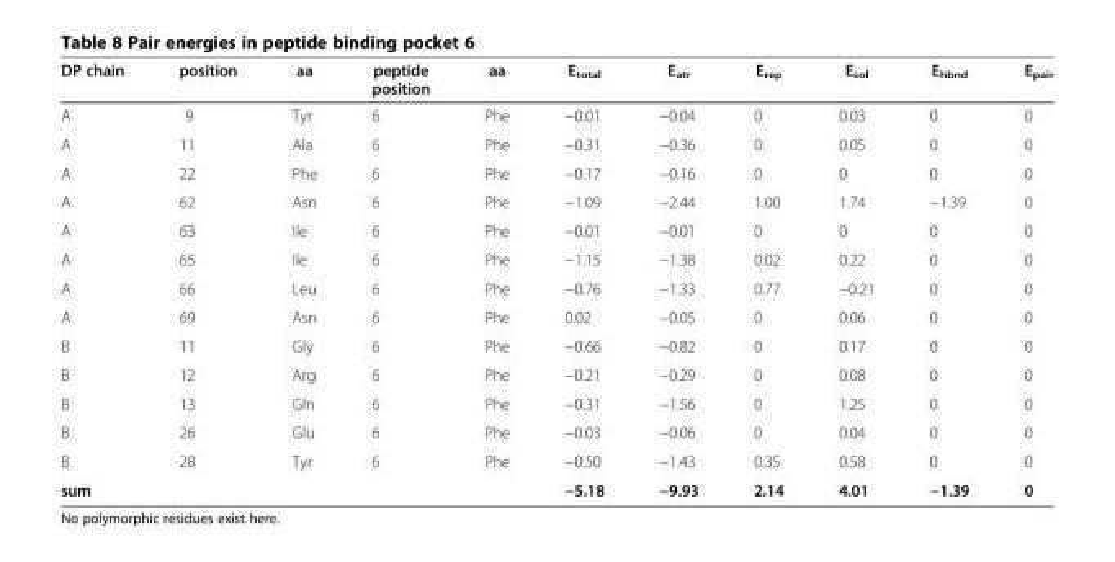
<table><thead><tr><td>DP chain</td><td>position</td><td>aa</td><td>peptide position</td><td>aa</td><td>E<sub>total</sub></td><td>E<sub>atr</sub></td><td>E<sub>rep</sub></td><td>E<sub>sol</sub></td><td>E<sub>hbnd</sub></td><td>E<sub>pair</sub></td></tr></thead><tbody><tr><td>A</td><td>9</td><td>Tyr</td><td>6</td><td>Phe</td><td>−0.01</td><td>−0.04</td><td>0</td><td>0.03</td><td>0</td><td>0</td></tr><tr><td>A</td><td>11</td><td>Ala</td><td>6</td><td>Phe</td><td>−0.31</td><td>−0.36</td><td>0</td><td>0.05</td><td>0</td><td>0</td></tr><tr><td>A</td><td>22</td><td>Phe</td><td>6</td><td>Phe</td><td>−0.17</td><td>−0.16</td><td>0</td><td>0</td><td>0</td><td>0</td></tr><tr><td>A</td><td>62</td><td>Asn</td><td>6</td><td>Phe</td><td>−1.09</td><td>−2.44</td><td>1.00</td><td>1.74</td><td>−1.39</td><td>0</td></tr><tr><td>A</td><td>63</td><td>Ile</td><td>6</td><td>Phe</td><td>−0.01</td><td>−0.01</td><td>0</td><td>0</td><td>0</td><td>0</td></tr><tr><td>A</td><td>65</td><td>Ile</td><td>6</td><td>Phe</td><td>−1.15</td><td>−1.38</td><td>0.02</td><td>0.22</td><td>0</td><td>0</td></tr><tr><td>A</td><td>66</td><td>Leu</td><td>6</td><td>Phe</td><td>−0.76</td><td>−1.33</td><td>0.77</td><td>−0.21</td><td>0</td><td>0</td></tr><tr><td>A</td><td>69</td><td>Asn</td><td>6</td><td>Phe</td><td>0.02</td><td>−0.05</td><td>0</td><td>0.06</td><td>0</td><td>0</td></tr><tr><td>B</td><td>11</td><td>Gly</td><td>6</td><td>Phe</td><td>−0.66</td><td>−0.82</td><td>0</td><td>0.17</td><td>0</td><td>0</td></tr><tr><td>B</td><td>12</td><td>Arg</td><td>6</td><td>Phe</td><td>−0.21</td><td>−0.29</td><td>0</td><td>0.08</td><td>0</td><td>0</td></tr><tr><td>B</td><td>13</td><td>Gln</td><td>6</td><td>Phe</td><td>−0.31</td><td>−1.56</td><td>0</td><td>1.25</td><td>0</td><td>0</td></tr><tr><td>B</td><td>26</td><td>Glu</td><td>6</td><td>Phe</td><td>−0.03</td><td>−0.06</td><td>0</td><td>0.04</td><td>0</td><td>0</td></tr><tr><td>B</td><td>28</td><td>Tyr</td><td>6</td><td>Phe</td><td>−0.50</td><td>−1.43</td><td>0.35</td><td>0.58</td><td>0</td><td>0</td></tr><tr><td>sum</td><td></td><td></td><td></td><td></td><td>−5.18</td><td>−9.93</td><td>2.14</td><td>4.01</td><td>−1.39</td><td>0</td></tr></tbody></table>